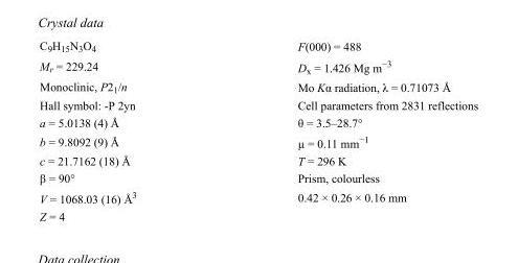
<table><tbody><tr><td>C<sub>9</sub>H<sub>15</sub>N<sub>3</sub>O<sub>4</sub></td><td>F(000) = 488</td></tr><tr><td>M<sub>r</sub> = 229.24</td><td>D<sub>x</sub> = 1.426 Mg m<sup>−3</sup></td></tr><tr><td>Monoclinic, P2<sub>1</sub>/n</td><td>Mo Kα radiation, λ = 0.71073 Å</td></tr><tr><td>Hall symbol: -P 2yn</td><td>Cell parameters from 2831 reflections</td></tr><tr><td>a = 5.0138 (4) Å</td><td>θ = 3.5–28.7°</td></tr><tr><td>b = 9.8092 (9) Å</td><td>µ = 0.11 mm<sup>−1</sup></td></tr><tr><td>c = 21.7162 (18) Å</td><td>T = 296 K</td></tr><tr><td>β = 90°</td><td>Prism, colourless</td></tr><tr><td>V = 1068.03 (16) Å<sup>3</sup></td><td>0.42 × 0.26 × 0.16 mm</td></tr><tr><td>Z = 4</td><td></td></tr></tbody></table>